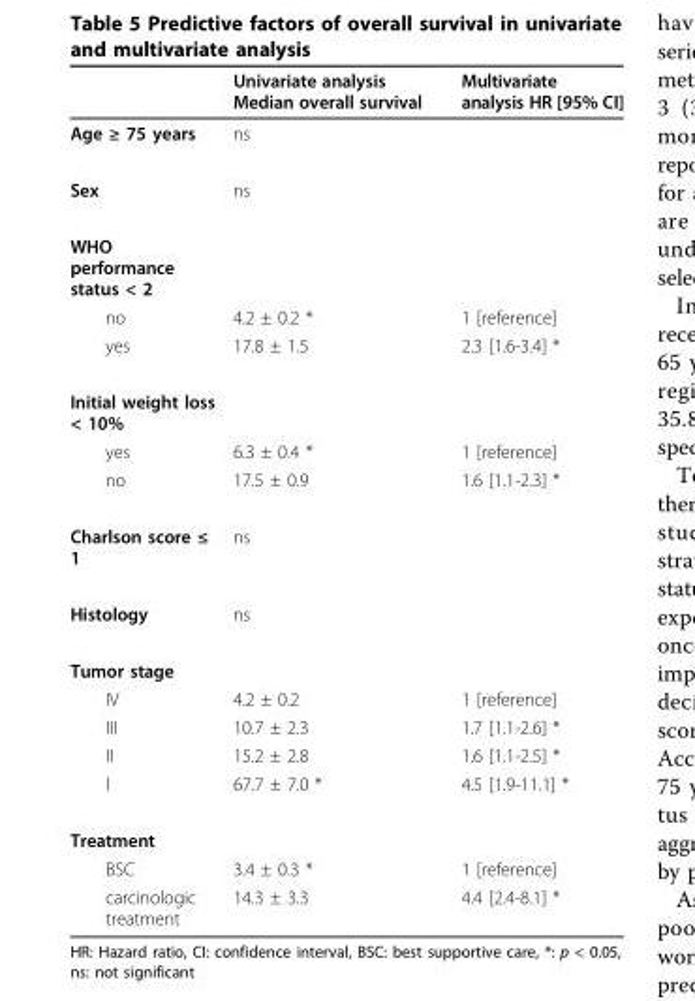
<table><thead><tr><td></td><td>Univariate analysis Median overall survival</td><td>Multivariate analysis HR [95% CI]</td></tr></thead><tbody><tr><td>Age ≥ 75 years</td><td>ns</td><td></td></tr><tr><td>Sex</td><td>ns</td><td></td></tr><tr><td colspan="3">WHO performance status &lt; 2</td></tr><tr><td>no</td><td>4.2 ± 0.2 *</td><td>1 [reference]</td></tr><tr><td>yes</td><td>17.8 ± 1.5</td><td>2.3 [1.6-3.4] *</td></tr><tr><td colspan="3">Initial weight loss &lt; 10%</td></tr><tr><td>yes</td><td>6.3 ± 0.4 *</td><td>1 [reference]</td></tr><tr><td>no</td><td>17.5 ± 0.9</td><td>1.6 [1.1-2.3] *</td></tr><tr><td>Charlson score ≤ 1</td><td>ns</td><td></td></tr><tr><td>Histology</td><td>ns</td><td></td></tr><tr><td colspan="3">Tumor stage</td></tr><tr><td>IV</td><td>4.2 ± 0.2</td><td>1 [reference]</td></tr><tr><td>III</td><td>10.7 ± 2.3</td><td>1.7 [1.1-2.6] *</td></tr><tr><td>II</td><td>15.2 ± 2.8</td><td>1.6 [1.1-2.5] *</td></tr><tr><td>I</td><td>67.7 ± 7.0 *</td><td>4.5 [1.9-11.1] *</td></tr><tr><td colspan="3">Treatment</td></tr><tr><td>BSC</td><td>3.4 ± 0.3 *</td><td>1 [reference]</td></tr><tr><td>carcinologic treatment</td><td>14.3 ± 3.3</td><td>4.4 [2.4-8.1] *</td></tr></tbody></table>